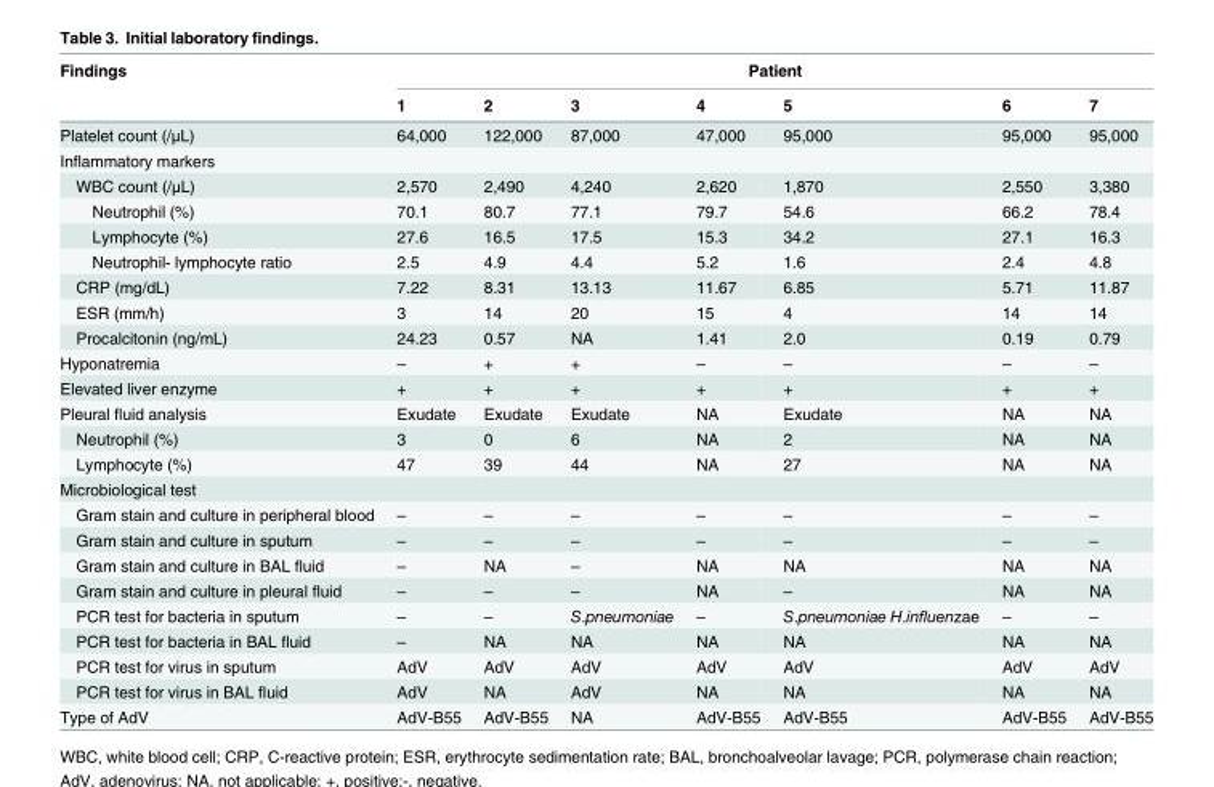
<table><thead><tr><td rowspan="2">Findings</td><td colspan="7">Patient</td></tr><tr><td>1</td><td>2</td><td>3</td><td>4</td><td>5</td><td>6</td><td>7</td></tr></thead><tbody><tr><td>Platelet count (/μL)</td><td>64,000</td><td>122,000</td><td>87,000</td><td>47,000</td><td>95,000</td><td>95,000</td><td>95,000</td></tr><tr><td colspan="8">Inflammatory markers</td></tr><tr><td>WBC count (/μL)</td><td>2,570</td><td>2,490</td><td>4,240</td><td>2,620</td><td>1,870</td><td>2,550</td><td>3,380</td></tr><tr><td>Neutrophil (%)</td><td>70.1</td><td>80.7</td><td>77.1</td><td>79.7</td><td>54.6</td><td>66.2</td><td>78.4</td></tr><tr><td>Lymphocyte (%)</td><td>27.6</td><td>16.5</td><td>17.5</td><td>15.3</td><td>34.2</td><td>27.1</td><td>16.3</td></tr><tr><td>Neutrophil- lymphocyte ratio</td><td>2.5</td><td>4.9</td><td>4.4</td><td>5.2</td><td>1.6</td><td>2.4</td><td>4.8</td></tr><tr><td>CRP (mg/dL)</td><td>7.22</td><td>8.31</td><td>13.13</td><td>11.67</td><td>6.85</td><td>5.71</td><td>11.87</td></tr><tr><td>ESR (mm/h)</td><td>3</td><td>14</td><td>20</td><td>15</td><td>4</td><td>14</td><td>14</td></tr><tr><td>Procalcitonin (ng/mL)</td><td>24.23</td><td>0.57</td><td>NA</td><td>1.41</td><td>2.0</td><td>0.19</td><td>0.79</td></tr><tr><td>Hyponatremia</td><td>–</td><td>+</td><td>+</td><td>–</td><td>–</td><td>–</td><td>–</td></tr><tr><td>Elevated liver enzyme</td><td>+</td><td>+</td><td>+</td><td>+</td><td>+</td><td>+</td><td>+</td></tr><tr><td>Pleural fluid analysis</td><td>Exudate</td><td>Exudate</td><td>Exudate</td><td>NA</td><td>Exudate</td><td>NA</td><td>NA</td></tr><tr><td>Neutrophil (%)</td><td>3</td><td>0</td><td>6</td><td>NA</td><td>2</td><td>NA</td><td>NA</td></tr><tr><td>Lymphocyte (%)</td><td>47</td><td>39</td><td>44</td><td>NA</td><td>27</td><td>NA</td><td>NA</td></tr><tr><td colspan="8">Microbiological test</td></tr><tr><td>Gram stain and culture in peripheral blood</td><td>–</td><td>–</td><td>–</td><td>–</td><td>–</td><td>–</td><td>–</td></tr><tr><td>Gram stain and culture in sputum</td><td>–</td><td>–</td><td>–</td><td>–</td><td>–</td><td>–</td><td>–</td></tr><tr><td>Gram stain and culture in BAL fluid</td><td>–</td><td>NA</td><td>–</td><td>NA</td><td>NA</td><td>NA</td><td>NA</td></tr><tr><td>Gram stain and culture in pleural fluid</td><td>–</td><td>–</td><td>–</td><td>NA</td><td>–</td><td>NA</td><td>NA</td></tr><tr><td>PCR test for bacteria in sputum</td><td>–</td><td>–</td><td>S.pneumoniae</td><td>–</td><td>S.pneumoniae H.influenzae</td><td>–</td><td>–</td></tr><tr><td>PCR test for bacteria in BAL fluid</td><td>–</td><td>NA</td><td>NA</td><td>NA</td><td>NA</td><td>NA</td><td>NA</td></tr><tr><td>PCR test for virus in sputum</td><td>AdV</td><td>AdV</td><td>AdV</td><td>AdV</td><td>AdV</td><td>AdV</td><td>AdV</td></tr><tr><td>PCR test for virus in BAL fluid</td><td>AdV</td><td>NA</td><td>AdV</td><td>NA</td><td>NA</td><td>NA</td><td>NA</td></tr><tr><td>Type of AdV</td><td>AdV-B55</td><td>AdV-B55</td><td>NA</td><td>AdV-B55</td><td>AdV-B55</td><td>AdV-B55</td><td>AdV-B55</td></tr></tbody></table>